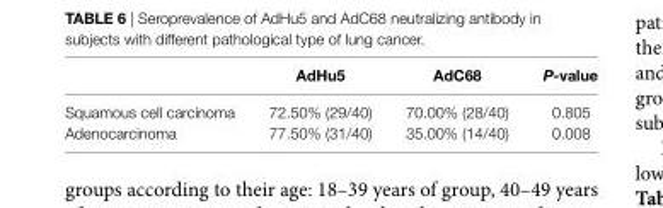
<table><thead><tr><td></td><td>adhu5</td><td>adc68</td><td>P-value</td></tr></thead><tbody><tr><td>Squamous cell carcinoma</td><td>72.50% (29/40)</td><td>70.00% (28/40)</td><td>0.805</td></tr><tr><td>Adenocarcinoma</td><td>77.50% (31/40)</td><td>35.00% (14/40)</td><td>0.008</td></tr></tbody></table>